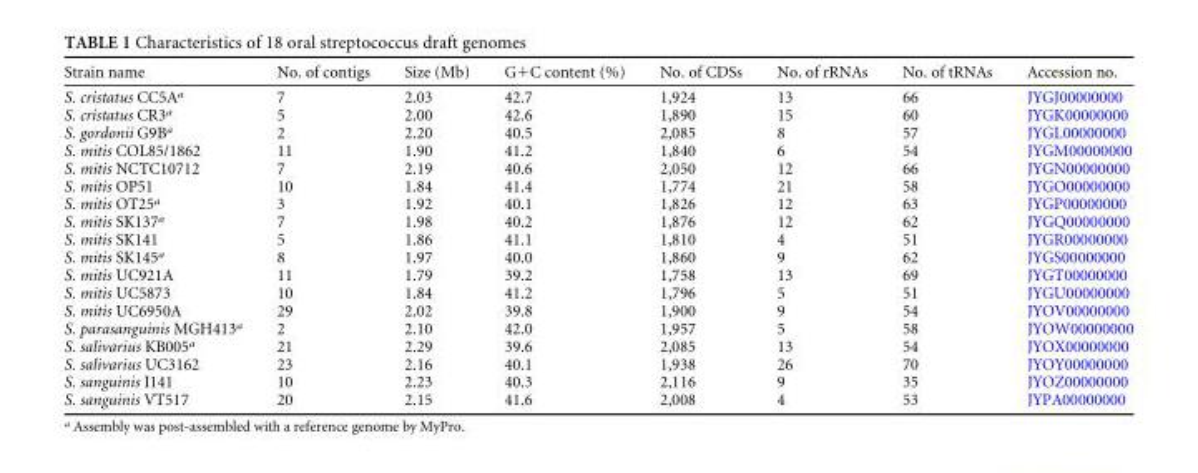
<table><thead><tr><td>Strain name</td><td>No. of contigs</td><td>Size (Mb)</td><td>G+C content (%)</td><td>No. of CDSs</td><td>No. of rRNAs</td><td>No. of tRNAs</td><td>Accession no.</td></tr></thead><tbody><tr><td>S. cristatus CC5A<sup>a</sup></td><td>7</td><td>2.03</td><td>42.7</td><td>1,924</td><td>13</td><td>66</td><td>JYGJ00000000</td></tr><tr><td>S. cristatus CR3<sup>a</sup></td><td>5</td><td>2.00</td><td>42.6</td><td>1,890</td><td>15</td><td>60</td><td>JYGK00000000</td></tr><tr><td>S. gordonii G9B<sup>a</sup></td><td>2</td><td>2.20</td><td>40.5</td><td>2,085</td><td>8</td><td>57</td><td>JYGL00000000</td></tr><tr><td>S. mitis COL85/1862</td><td>11</td><td>1.90</td><td>41.2</td><td>1,840</td><td>6</td><td>54</td><td>JYGM00000000</td></tr><tr><td>S. mitis NCTC10712</td><td>7</td><td>2.19</td><td>40.6</td><td>2,050</td><td>12</td><td>66</td><td>JYGN00000000</td></tr><tr><td>S. mitis OP51</td><td>10</td><td>1.84</td><td>41.4</td><td>1,774</td><td>21</td><td>58</td><td>JYGO00000000</td></tr><tr><td>S. mitis OT25<sup>a</sup></td><td>3</td><td>1.92</td><td>40.1</td><td>1,826</td><td>12</td><td>63</td><td>JYGP00000000</td></tr><tr><td>S. mitis SK137<sup>a</sup></td><td>7</td><td>1.98</td><td>40.2</td><td>1,876</td><td>12</td><td>62</td><td>JYGQ00000000</td></tr><tr><td>S. mitis SK141</td><td>5</td><td>1.86</td><td>41.1</td><td>1,810</td><td>4</td><td>51</td><td>JYGR00000000</td></tr><tr><td>S. mitis SK145<sup>a</sup></td><td>8</td><td>1.97</td><td>40.0</td><td>1,860</td><td>9</td><td>62</td><td>JYGS00000000</td></tr><tr><td>S. mitis UC921A</td><td>11</td><td>1.79</td><td>39.2</td><td>1,758</td><td>13</td><td>69</td><td>JYGT00000000</td></tr><tr><td>S. mitis UC5873</td><td>10</td><td>1.84</td><td>41.2</td><td>1,796</td><td>5</td><td>51</td><td>JYGU00000000</td></tr><tr><td>S. mitis UC6950A</td><td>29</td><td>2.02</td><td>39.8</td><td>1,900</td><td>9</td><td>54</td><td>JYOV00000000</td></tr><tr><td>S. parasanguinis MGH413<sup>a</sup></td><td>2</td><td>2.10</td><td>42.0</td><td>1,957</td><td>5</td><td>58</td><td>JYOW00000000</td></tr><tr><td>S. salivarius KB005<sup>a</sup></td><td>21</td><td>2.29</td><td>39.6</td><td>2,085</td><td>13</td><td>54</td><td>JYOX00000000</td></tr><tr><td>S. salivarius UC3162</td><td>23</td><td>2.16</td><td>40.1</td><td>1,938</td><td>26</td><td>70</td><td>JYOY00000000</td></tr><tr><td>S. sanguinis I141</td><td>10</td><td>2.23</td><td>40.3</td><td>2,116</td><td>9</td><td>35</td><td>JYOZ00000000</td></tr><tr><td>S. sanguinis VT517</td><td>20</td><td>2.15</td><td>41.6</td><td>2,008</td><td>4</td><td>53</td><td>JYPA00000000</td></tr></tbody></table>